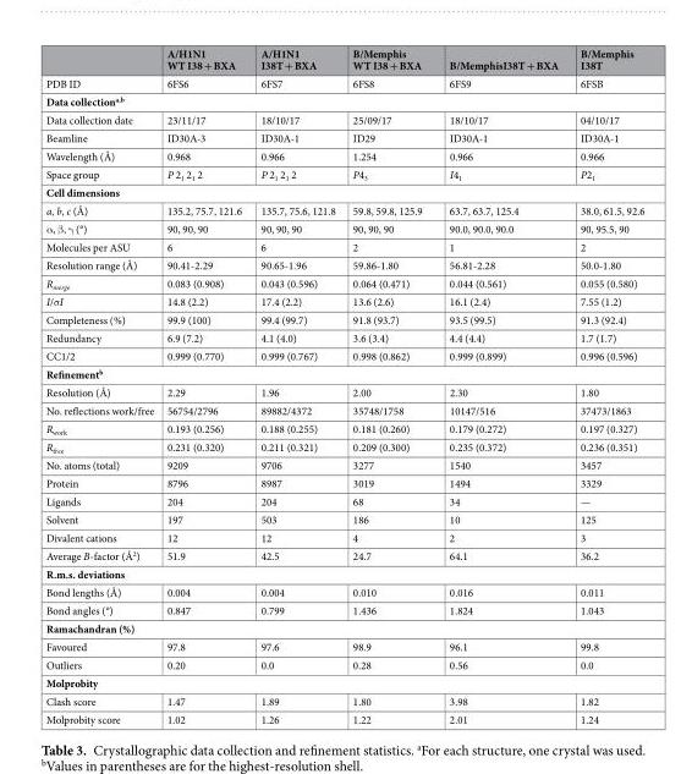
<table><thead><tr><td></td><td>A/H1N1 WT I38 + BXA</td><td>A/H1N1 I38T + BXA</td><td>B/Memphis WT I38 + BXA</td><td>B/MemphisI38T + BXA</td><td>B/Memphis I38T</td></tr></thead><tbody><tr><td>PDB ID</td><td>6FS6</td><td>6FS7</td><td>6FS8</td><td>6FS9</td><td>6FSB</td></tr><tr><td colspan="6">Data collection<sup>a,b</sup></td></tr><tr><td>Data collection date</td><td>23/11/17</td><td>18/10/17</td><td>25/09/17</td><td>18/10/17</td><td>04/10/17</td></tr><tr><td>Beamline</td><td>ID30A-3</td><td>ID30A-1</td><td>ID29</td><td>ID30A-1</td><td>ID30A-1</td></tr><tr><td>Wavelength (Å)</td><td>0.968</td><td>0.966</td><td>1.254</td><td>0.966</td><td>0.966</td></tr><tr><td>Space group</td><td>P 2<sub>1</sub> 2<sub>1</sub> 2</td><td>P 2<sub>1</sub> 2<sub>1</sub> 2</td><td>P4<sub>3</sub></td><td>I4<sub>1</sub></td><td>P2<sub>1</sub></td></tr><tr><td colspan="6">Cell dimensions</td></tr><tr><td>a, b, c (Å)</td><td>135.2, 75.7, 121.6</td><td>135.7, 75.6, 121.8</td><td>59.8, 59.8, 125.9</td><td>63.7, 63.7, 125.4</td><td>38.0, 61.5, 92.6</td></tr><tr><td>α, β, γ (°)</td><td>90, 90, 90</td><td>90, 90, 90</td><td>90, 90, 90</td><td>90.0, 90.0, 90.0</td><td>90, 95.5, 90</td></tr><tr><td>Molecules per ASU</td><td>6</td><td>6</td><td>2</td><td>1</td><td>2</td></tr><tr><td>Resolution range (Å)</td><td>90.41-2.29</td><td>90.65-1.96</td><td>59.86-1.80</td><td>56.81-2.28</td><td>50.0-1.80</td></tr><tr><td>R<sub>merge</sub></td><td>0.083 (0.908)</td><td>0.043 (0.596)</td><td>0.064 (0.471)</td><td>0.044 (0.561)</td><td>0.055 (0.580)</td></tr><tr><td>I/σI</td><td>14.8 (2.2)</td><td>17.4 (2.2)</td><td>13.6 (2.6)</td><td>16.1 (2.4)</td><td>7.55 (1.2)</td></tr><tr><td>Completeness (%)</td><td>99.9 (100)</td><td>99.4 (99.7)</td><td>91.8 (93.7)</td><td>93.5 (99.5)</td><td>91.3 (92.4)</td></tr><tr><td>Redundancy</td><td>6.9 (7.2)</td><td>4.1 (4.0)</td><td>3.6 (3.4)</td><td>4.4 (4.4)</td><td>1.7 (1.7)</td></tr><tr><td>CC1/2</td><td>0.999 (0.770)</td><td>0.999 (0.767)</td><td>0.998 (0.862)</td><td>0.999 (0.899)</td><td>0.996 (0.596)</td></tr><tr><td colspan="6">Refinement<sup>b</sup></td></tr><tr><td>Resolution (Å)</td><td>2.29</td><td>1.96</td><td>2.00</td><td>2.30</td><td>1.80</td></tr><tr><td>No. reflections work/free</td><td>56754/2796</td><td>89882/4372</td><td>35748/1758</td><td>10147/516</td><td>37473/1863</td></tr><tr><td>R<sub>work</sub></td><td>0.193 (0.256)</td><td>0.188 (0.255)</td><td>0.181 (0.260)</td><td>0.179 (0.272)</td><td>0.197 (0.327)</td></tr><tr><td>R<sub>free</sub></td><td>0.231 (0.320)</td><td>0.211 (0.321)</td><td>0.209 (0.300)</td><td>0.235 (0.372)</td><td>0.236 (0.351)</td></tr><tr><td>No. atoms (total)</td><td>9209</td><td>9706</td><td>3277</td><td>1540</td><td>3457</td></tr><tr><td>Protein</td><td>8796</td><td>8987</td><td>3019</td><td>1494</td><td>3329</td></tr><tr><td>Ligands</td><td>204</td><td>204</td><td>68</td><td>34</td><td>—</td></tr><tr><td>Solvent</td><td>197</td><td>503</td><td>186</td><td>10</td><td>125</td></tr><tr><td>Divalent cations</td><td>12</td><td>12</td><td>4</td><td>2</td><td>3</td></tr><tr><td>Average B-factor (Å<sup>2</sup>)</td><td>51.9</td><td>42.5</td><td>24.7</td><td>64.1</td><td>36.2</td></tr><tr><td colspan="6">R.m.s. deviations</td></tr><tr><td>Bond lengths (Å)</td><td>0.004</td><td>0.004</td><td>0.010</td><td>0.016</td><td>0.011</td></tr><tr><td>Bond angles (°)</td><td>0.847</td><td>0.799</td><td>1.436</td><td>1.824</td><td>1.043</td></tr><tr><td colspan="6">Ramachandran (%)</td></tr><tr><td>Favoured</td><td>97.8</td><td>97.6</td><td>98.9</td><td>96.1</td><td>99.8</td></tr><tr><td>Outliers</td><td>0.20</td><td>0.0</td><td>0.28</td><td>0.56</td><td>0.0</td></tr><tr><td colspan="6">Molprobity</td></tr><tr><td>Clash score</td><td>1.47</td><td>1.89</td><td>1.80</td><td>3.98</td><td>1.82</td></tr><tr><td>Molprobity score</td><td>1.02</td><td>1.26</td><td>1.22</td><td>2.01</td><td>1.24</td></tr></tbody></table>